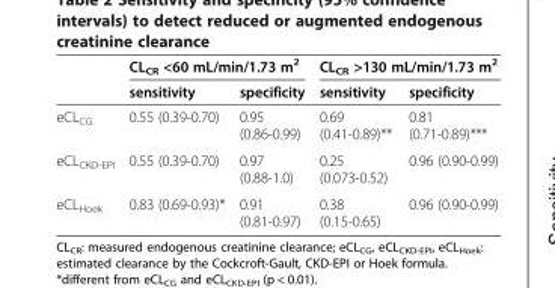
<table><thead><tr><td rowspan="2"></td><td colspan="2">CL<sub>CR</sub> &lt;60 mL/min/1.73 m<sup>2</sup></td><td colspan="2">CL<sub>CR</sub> &gt;130 mL/min/1.73 m<sup>2</sup></td></tr><tr><td>sensitivity</td><td>specificity</td><td>sensitivity</td><td>specificity</td></tr></thead><tbody><tr><td>eCL<sub>CG</sub></td><td>0.55 (0.39-0.70)</td><td>0.95 (0.86-0.99)</td><td>0.69 (0.41-0.89)**</td><td>0.81 (0.71-0.89)***</td></tr><tr><td>eCL<sub>CKD-EPI</sub></td><td>0.55 (0.39-0.70)</td><td>0.97 (0.88-1.0)</td><td>0.25 (0.073-0.52)</td><td>0.96 (0.90-0.99)</td></tr><tr><td>eCL<sub>Hoek</sub></td><td>0.83 (0.69-0.93)*</td><td>0.91 (0.81-0.97)</td><td>0.38 (0.15-0.65)</td><td>0.96 (0.90-0.99)</td></tr></tbody></table>